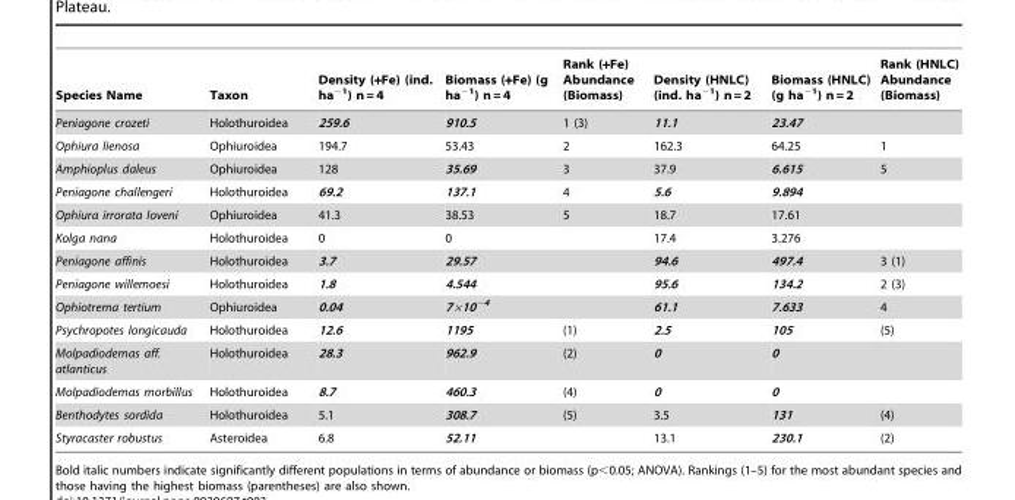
<table><thead><tr><td>Species Name</td><td>Taxon</td><td>Density (+Fe) (ind. ha<sup>−1</sup>) n = 4</td><td>Biomass (+Fe) (g ha<sup>−1</sup>) n = 4</td><td>Rank (+Fe) Abundance (Biomass)</td><td>Density (HNLC) (ind. ha<sup>−1</sup>) n = 2</td><td>Biomass (HNLC) (g ha<sup>−1</sup>) n = 2</td><td>Rank (HNLC) Abundance (Biomass)</td></tr></thead><tbody><tr><td>Peniagone crozeti</td><td>Holothuroidea</td><td>259.6</td><td>910.5</td><td>1 (3)</td><td>11.1</td><td>23.47</td><td></td></tr><tr><td>Ophiura lienosa</td><td>Ophiuroidea</td><td>194.7</td><td>53.43</td><td>2</td><td>162.3</td><td>64.25</td><td>1</td></tr><tr><td>Amphioplus daleus</td><td>Ophiuroidea</td><td>128</td><td>35.69</td><td>3</td><td>37.9</td><td>6.615</td><td>5</td></tr><tr><td>Peniagone challengeri</td><td>Holothuroidea</td><td>69.2</td><td>137.1</td><td>4</td><td>5.6</td><td>9.894</td><td></td></tr><tr><td>Ophiura irrorata loveni</td><td>Ophiuroidea</td><td>41.3</td><td>38.53</td><td>5</td><td>18.7</td><td>17.61</td><td></td></tr><tr><td>Kolga nana</td><td>Holothuroidea</td><td>0</td><td>0</td><td></td><td>17.4</td><td>3.276</td><td></td></tr><tr><td>Peniagone affinis</td><td>Holothuroidea</td><td>3.7</td><td>29.57</td><td></td><td>94.6</td><td>497.4</td><td>3 (1)</td></tr><tr><td>Peniagone willemoesi</td><td>Holothuroidea</td><td>1.8</td><td>4.544</td><td></td><td>95.6</td><td>134.2</td><td>2 (3)</td></tr><tr><td>Ophiotrema tertium</td><td>Ophiuroidea</td><td>0.04</td><td>7×10<sup>−4</sup></td><td></td><td>61.1</td><td>7.633</td><td>4</td></tr><tr><td>Psychropotes longicauda</td><td>Holothuroidea</td><td>12.6</td><td>1195</td><td>(1)</td><td>2.5</td><td>105</td><td>(5)</td></tr><tr><td>Molpadiodemas aff. atlanticus</td><td>Holothuroidea</td><td>28.3</td><td>962.9</td><td>(2)</td><td>0</td><td>0</td><td></td></tr><tr><td>Molpadiodemas morbillus</td><td>Holothuroidea</td><td>8.7</td><td>460.3</td><td>(4)</td><td>0</td><td>0</td><td></td></tr><tr><td>Benthodytes sordida</td><td>Holothuroidea</td><td>5.1</td><td>308.7</td><td>(5)</td><td>3.5</td><td>131</td><td>(4)</td></tr><tr><td>Styracaster robustus</td><td>Asteroidea</td><td>6.8</td><td>52.11</td><td></td><td>13.1</td><td>230.1</td><td>(2)</td></tr></tbody></table>